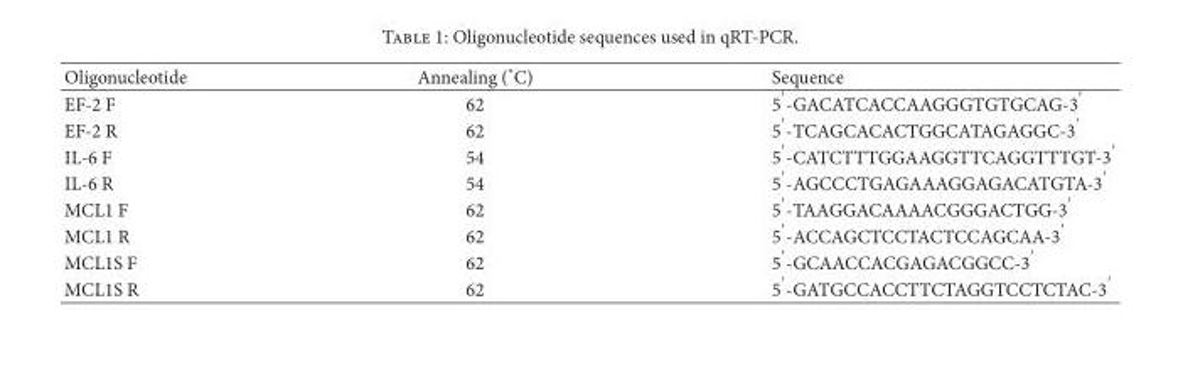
<table><thead><tr><td>Oligonucleotide</td><td>Annealing (∘C)</td><td>Sequence</td></tr></thead><tbody><tr><td>EF-2 F</td><td>62</td><td>5′-GACATCACCAAGGGTGTGCAG-3′</td></tr><tr><td>EF-2 R</td><td>62</td><td>5′-TCAGCACACTGGCATAGAGGC-3′</td></tr><tr><td>IL-6 F</td><td>54</td><td>5′-CATCTTTGGAAGGTTCAGGTTTGT-3′</td></tr><tr><td>IL-6 R</td><td>54</td><td>5′-AGCCCTGAGAAAGGAGACATGTA-3′</td></tr><tr><td>MCL1 F</td><td>62</td><td>5′-TAAGGACAAAACGGGACTGG-3′</td></tr><tr><td>MCL1 R</td><td>62</td><td>5′-ACCAGCTCCTACTCCAGCAA-3′</td></tr><tr><td>MCL1S F</td><td>62</td><td>5′-GCAACCACGAGACGGCC-3′</td></tr><tr><td>MCL1S R</td><td>62</td><td>5′-GATGCCACCTTCTAGGTCCTCTAC-3′</td></tr></tbody></table>